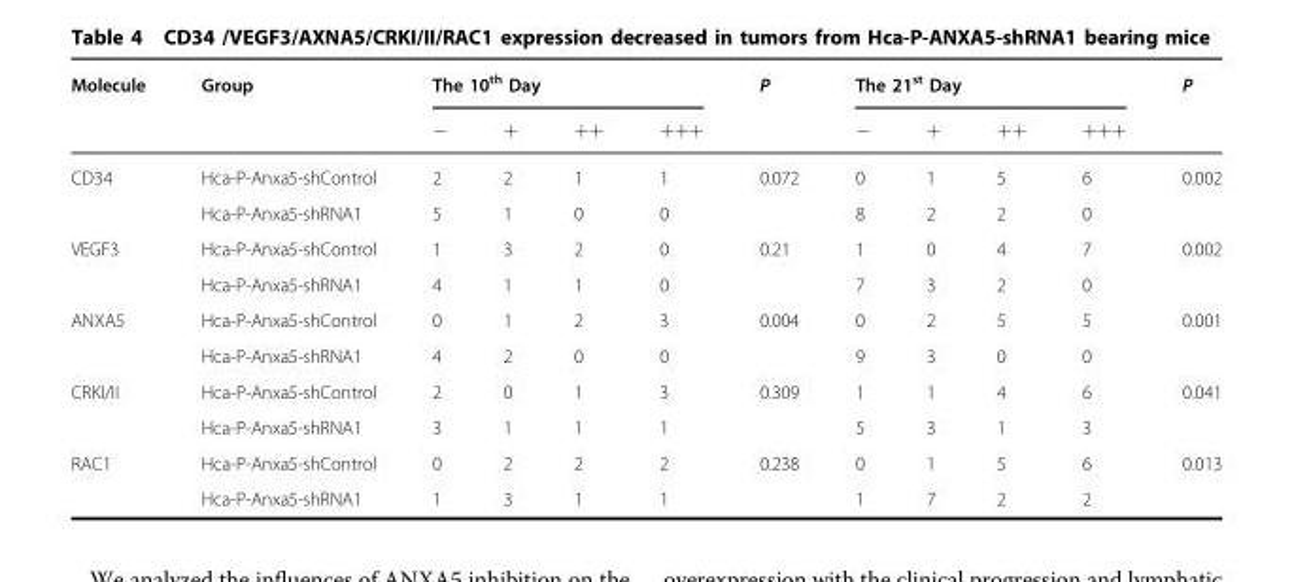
<table><thead><tr><td rowspan="2">Molecule</td><td rowspan="2">Group</td><td colspan="4">The 10<sup>th</sup> Day</td><td rowspan="2">P</td><td colspan="4">The 21<sup>st</sup> Day</td><td rowspan="2">P</td></tr><tr><td>−</td><td>+</td><td>++</td><td>+++</td><td>−</td><td>+</td><td>++</td><td>+++</td></tr></thead><tbody><tr><td rowspan="2">CD34</td><td>Hca-P-Anxa5-shControl</td><td>2</td><td>2</td><td>1</td><td>1</td><td rowspan="2">0.072</td><td>0</td><td>1</td><td>5</td><td>6</td><td rowspan="2">0.002</td></tr><tr><td>Hca-P-Anxa5-shRNA1</td><td>5</td><td>1</td><td>0</td><td>0</td><td>8</td><td>2</td><td>2</td><td>0</td></tr><tr><td rowspan="2">VEGF3</td><td>Hca-P-Anxa5-shControl</td><td>1</td><td>3</td><td>2</td><td>0</td><td rowspan="2">0.21</td><td>1</td><td>0</td><td>4</td><td>7</td><td rowspan="2">0.002</td></tr><tr><td>Hca-P-Anxa5-shRNA1</td><td>4</td><td>1</td><td>1</td><td>0</td><td>7</td><td>3</td><td>2</td><td>0</td></tr><tr><td rowspan="2">ANXA5</td><td>Hca-P-Anxa5-shControl</td><td>0</td><td>1</td><td>2</td><td>3</td><td rowspan="2">0.004</td><td>0</td><td>2</td><td>5</td><td>5</td><td rowspan="2">0.001</td></tr><tr><td>Hca-P-Anxa5-shRNA1</td><td>4</td><td>2</td><td>0</td><td>0</td><td>9</td><td>3</td><td>0</td><td>0</td></tr><tr><td rowspan="2">CRKI/II</td><td>Hca-P-Anxa5-shControl</td><td>2</td><td>0</td><td>1</td><td>3</td><td rowspan="2">0.309</td><td>1</td><td>1</td><td>4</td><td>6</td><td rowspan="2">0.041</td></tr><tr><td>Hca-P-Anxa5-shRNA1</td><td>3</td><td>1</td><td>1</td><td>1</td><td>5</td><td>3</td><td>1</td><td>3</td></tr><tr><td rowspan="2">RAC1</td><td>Hca-P-Anxa5-shControl</td><td>0</td><td>2</td><td>2</td><td>2</td><td rowspan="2">0.238</td><td>0</td><td>1</td><td>5</td><td>6</td><td rowspan="2">0.013</td></tr><tr><td>Hca-P-Anxa5-shRNA1</td><td>1</td><td>3</td><td>1</td><td>1</td><td>1</td><td>7</td><td>2</td><td>2</td></tr></tbody></table>